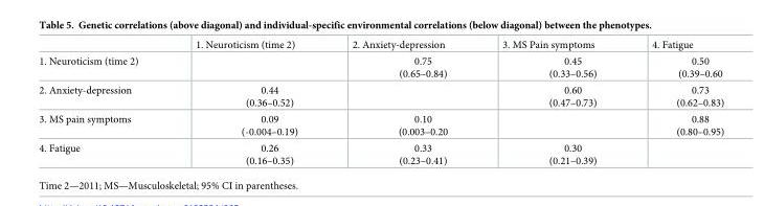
<table><thead><tr><td></td><td>1. Neuroticism (time 2)</td><td>2. Anxiety-depression</td><td>3. MS Pain symptoms</td><td>4. Fatigue</td></tr></thead><tbody><tr><td>1. Neuroticism (time 2)</td><td></td><td>0.75 (0.65–0.84)</td><td>0.45 (0.33–0.56)</td><td>0.50 (0.39–0.60</td></tr><tr><td>2. Anxiety-depression</td><td>0.44 (0.36–0.52)</td><td></td><td>0.60 (0.47–0.73)</td><td>0.73 (0.62–0.83)</td></tr><tr><td>3. MS pain symptoms</td><td>0.09 (-0.004–0.19)</td><td>0.10 (0.003–0.20</td><td></td><td>0.88 (0.80–0.95)</td></tr><tr><td>4. Fatigue</td><td>0.26 (0.16–0.35)</td><td>0.33 (0.23–0.41)</td><td>0.30 (0.21–0.39)</td><td></td></tr></tbody></table>